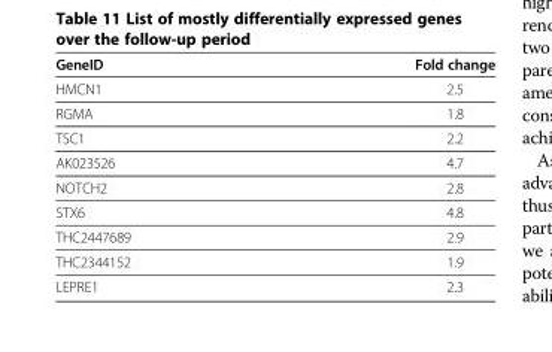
<table><thead><tr><td>GeneID</td><td>Fold change</td></tr></thead><tbody><tr><td>HMCN1</td><td>2.5</td></tr><tr><td>RGMA</td><td>1.8</td></tr><tr><td>TSC1</td><td>2.2</td></tr><tr><td>AK023526</td><td>4.7</td></tr><tr><td>NOTCH2</td><td>2.8</td></tr><tr><td>STX6</td><td>4.8</td></tr><tr><td>THC2447689</td><td>2.9</td></tr><tr><td>THC2344152</td><td>1.9</td></tr><tr><td>LEPRE1</td><td>2.3</td></tr></tbody></table>